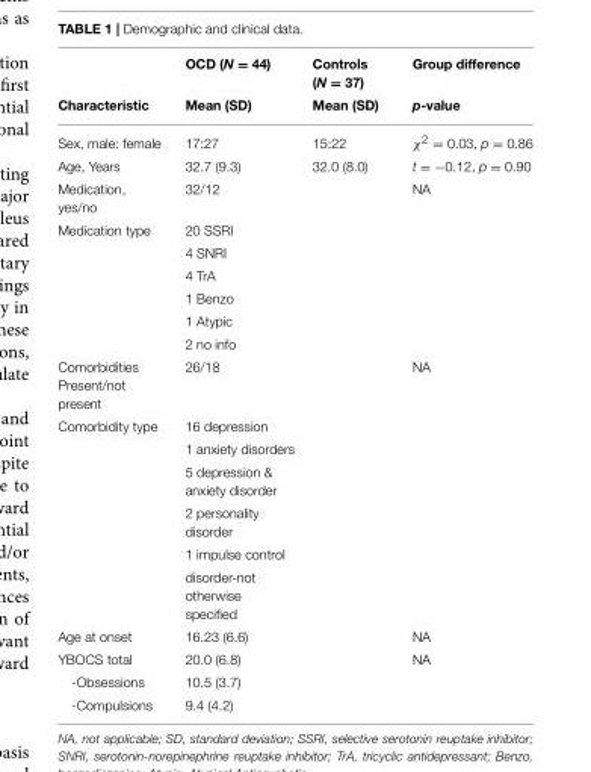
<table><thead><tr><td rowspan="2">Characteristic</td><td rowspan="2">OCD (N = 44) Mean (SD)</td><td rowspan="2">Controls (N = 37) Mean (SD)</td><td rowspan="2">Group difference p-value</td></tr><tr></tr></thead><tbody><tr><td>Sex, male: female</td><td>17:27</td><td>15:22</td><td>χ<sup>2</sup> = 0.03, p = 0.86</td></tr><tr><td>Age, Years</td><td>32.7 (9.3)</td><td>32.0 (8.0)</td><td>t = −0.12, p = 0.90</td></tr><tr><td>Medication, yes/no</td><td>32/12</td><td></td><td>NA</td></tr><tr><td rowspan="6">Medication type</td><td>20 SSRI</td><td></td><td></td></tr><tr><td>4 SNRI</td><td></td><td></td></tr><tr><td>4 TrA</td><td></td><td></td></tr><tr><td>1 Benzo</td><td></td><td></td></tr><tr><td>1 Atypic</td><td></td><td></td></tr><tr><td>2 no info</td><td></td><td></td></tr><tr><td>Comorbidities Present/not present</td><td>26/18</td><td></td><td>NA</td></tr><tr><td rowspan="6">Comorbidity type</td><td>16 depression</td><td></td><td></td></tr><tr><td>1 anxiety disorders</td><td></td><td></td></tr><tr><td>5 depression &amp; anxiety disorder</td><td></td><td></td></tr><tr><td>2 personality disorder</td><td></td><td></td></tr><tr><td>1 impulse control</td><td></td><td></td></tr><tr><td>disorder-not otherwise specified</td><td></td><td></td></tr><tr><td>Age at onset</td><td>16.23 (6.6)</td><td></td><td>NA</td></tr><tr><td>YBOCS total</td><td>20.0 (6.8)</td><td></td><td>NA</td></tr><tr><td>-Obsessions</td><td>10.5 (3.7)</td><td></td><td></td></tr><tr><td>-Compulsions</td><td>9.4 (4.2)</td><td></td><td></td></tr></tbody></table>